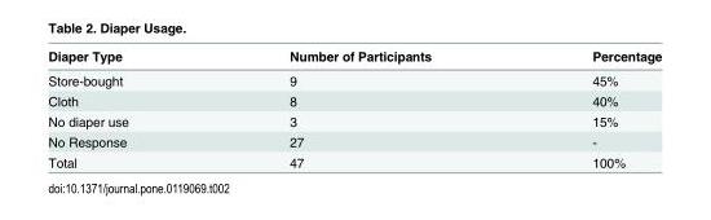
<table><thead><tr><td>Diaper Type</td><td>Number of Participants</td><td>Percentage</td></tr></thead><tbody><tr><td>Store-bought</td><td>9</td><td>45%</td></tr><tr><td>Cloth</td><td>8</td><td>40%</td></tr><tr><td>No diaper use</td><td>3</td><td>15%</td></tr><tr><td>No Response</td><td>27</td><td>-</td></tr><tr><td>Total</td><td>47</td><td>100%</td></tr></tbody></table>